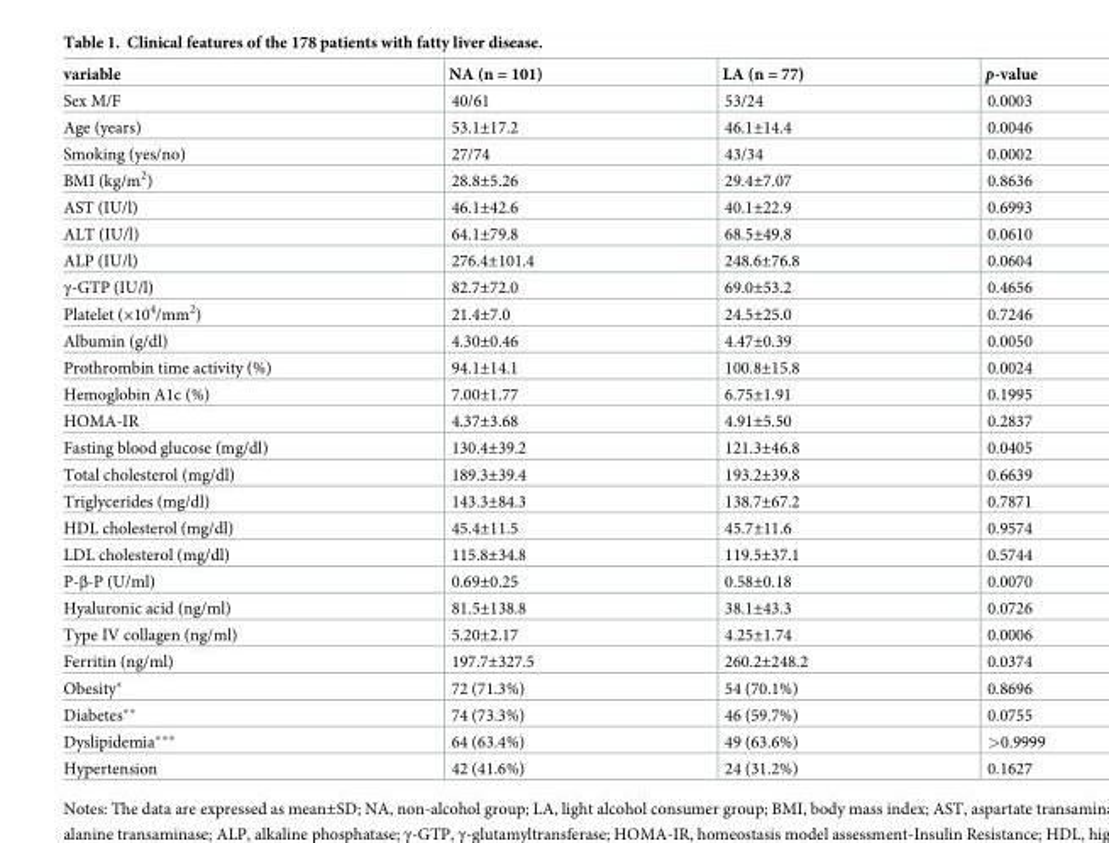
<table><thead><tr><td>variable</td><td>NA (n = 101)</td><td>LA (n = 77)</td><td>p-value</td></tr></thead><tbody><tr><td>Sex M/F</td><td>40/61</td><td>53/24</td><td>0.0003</td></tr><tr><td>Age (years)</td><td>53.1±17.2</td><td>46.1±14.4</td><td>0.0046</td></tr><tr><td>Smoking (yes/no)</td><td>27/74</td><td>43/34</td><td>0.0002</td></tr><tr><td>BMI (kg/m<sup>2</sup>)</td><td>28.8±5.26</td><td>29.4±7.07</td><td>0.8636</td></tr><tr><td>AST (IU/l)</td><td>46.1±42.6</td><td>40.1±22.9</td><td>0.6993</td></tr><tr><td>ALT (IU/l)</td><td>64.1±79.8</td><td>68.5±49.8</td><td>0.0610</td></tr><tr><td>ALP (IU/l)</td><td>276.4±101.4</td><td>248.6±76.8</td><td>0.0604</td></tr><tr><td>γ-GTP (IU/l)</td><td>82.7±72.0</td><td>69.0±53.2</td><td>0.4656</td></tr><tr><td>Platelet (×10<sup>4</sup>/mm<sup>2</sup>)</td><td>21.4±7.0</td><td>24.5±25.0</td><td>0.7246</td></tr><tr><td>Albumin (g/dl)</td><td>4.30±0.46</td><td>4.47±0.39</td><td>0.0050</td></tr><tr><td>Prothrombin time activity (%)</td><td>94.1±14.1</td><td>100.8±15.8</td><td>0.0024</td></tr><tr><td>Hemoglobin A1c (%)</td><td>7.00±1.77</td><td>6.75±1.91</td><td>0.1995</td></tr><tr><td>HOMA-IR</td><td>4.37±3.68</td><td>4.91±5.50</td><td>0.2837</td></tr><tr><td>Fasting blood glucose (mg/dl)</td><td>130.4±39.2</td><td>121.3±46.8</td><td>0.0405</td></tr><tr><td>Total cholesterol (mg/dl)</td><td>189.3±39.4</td><td>193.2±39.8</td><td>0.6639</td></tr><tr><td>Triglycerides (mg/dl)</td><td>143.3±84.3</td><td>138.7±67.2</td><td>0.7871</td></tr><tr><td>HDL cholesterol (mg/dl)</td><td>45.4±11.5</td><td>45.7±11.6</td><td>0.9574</td></tr><tr><td>LDL cholesterol (mg/dl)</td><td>115.8±34.8</td><td>119.5±37.1</td><td>0.5744</td></tr><tr><td>P-β-P (U/ml)</td><td>0.69±0.25</td><td>0.58±0.18</td><td>0.0070</td></tr><tr><td>Hyaluronic acid (ng/ml)</td><td>81.5±138.8</td><td>38.1±43.3</td><td>0.0726</td></tr><tr><td>Type IV collagen (ng/ml)</td><td>5.20±2.17</td><td>4.25±1.74</td><td>0.0006</td></tr><tr><td>Ferritin (ng/ml)</td><td>197.7±327.5</td><td>260.2±248.2</td><td>0.0374</td></tr><tr><td>Obesity*</td><td>72 (71.3%)</td><td>54 (70.1%)</td><td>0.8696</td></tr><tr><td>Diabetes**</td><td>74 (73.3%)</td><td>46 (59.7%)</td><td>0.0755</td></tr><tr><td>Dyslipidemia***</td><td>64 (63.4%)</td><td>49 (63.6%)</td><td>&gt;0.9999</td></tr><tr><td>Hypertension</td><td>42 (41.6%)</td><td>24 (31.2%)</td><td>0.1627</td></tr></tbody></table>